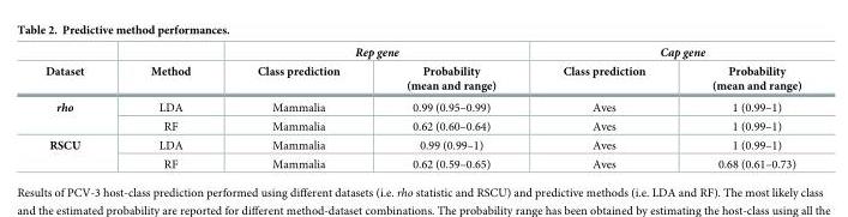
<table><thead><tr><td rowspan="2">Dataset</td><td rowspan="2">Method</td><td colspan="2">Rep gene</td><td colspan="2">Cap gene</td></tr><tr><td>Class prediction</td><td>Probability (mean and range)</td><td>Class prediction</td><td>Probability (mean and range)</td></tr></thead><tbody><tr><td rowspan="2">rho</td><td>LDA</td><td>Mammalia</td><td>0.99 (0.95–0.99)</td><td>Aves</td><td>1 (0.99–1)</td></tr><tr><td>RF</td><td>Mammalia</td><td>0.62 (0.60–0.64)</td><td>Aves</td><td>1 (0.99–1)</td></tr><tr><td rowspan="2">RSCU</td><td>LDA</td><td>Mammalia</td><td>0.99 (0.99–1)</td><td>Aves</td><td>1 (0.99–1)</td></tr><tr><td>RF</td><td>Mammalia</td><td>0.62 (0.59–0.65)</td><td>Aves</td><td>0.68 (0.61–0.73)</td></tr></tbody></table>